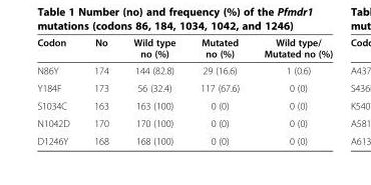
<table><thead><tr><td>Codon</td><td>No</td><td>Wild type no (%)</td><td>Mutated no (%)</td><td>Wild type/ Mutated no (%)</td></tr></thead><tbody><tr><td>N86Y</td><td>174</td><td>144 (82.8)</td><td>29 (16.6)</td><td>1 (0.6)</td></tr><tr><td>Y184F</td><td>173</td><td>56 (32.4)</td><td>117 (67.6)</td><td>0 (0)</td></tr><tr><td>S1034C</td><td>163</td><td>163 (100)</td><td>0 (0)</td><td>0 (0)</td></tr><tr><td>N1042D</td><td>170</td><td>170 (100)</td><td>0 (0)</td><td>0 (0)</td></tr><tr><td>D1246Y</td><td>168</td><td>168 (100)</td><td>0 (0)</td><td>0 (0)</td></tr></tbody></table>